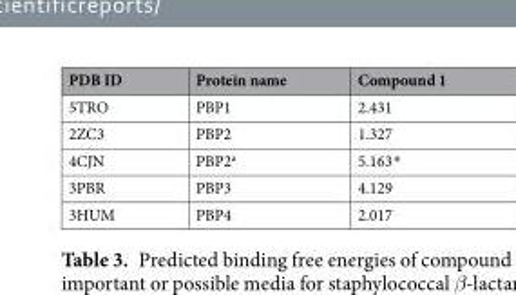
<table><thead><tr><td>PDB ID</td><td>Protein name</td><td>Compound 1</td></tr></thead><tbody><tr><td>5TRO</td><td>PBP1</td><td>2.431</td></tr><tr><td>2ZC3</td><td>PBP2</td><td>1.327</td></tr><tr><td>4CJN</td><td>PBP2<sup>a</sup></td><td>5.163*</td></tr><tr><td>3PBR</td><td>PBP3</td><td>4.129</td></tr><tr><td>3HUM</td><td>PBP4</td><td>2.017</td></tr></tbody></table>